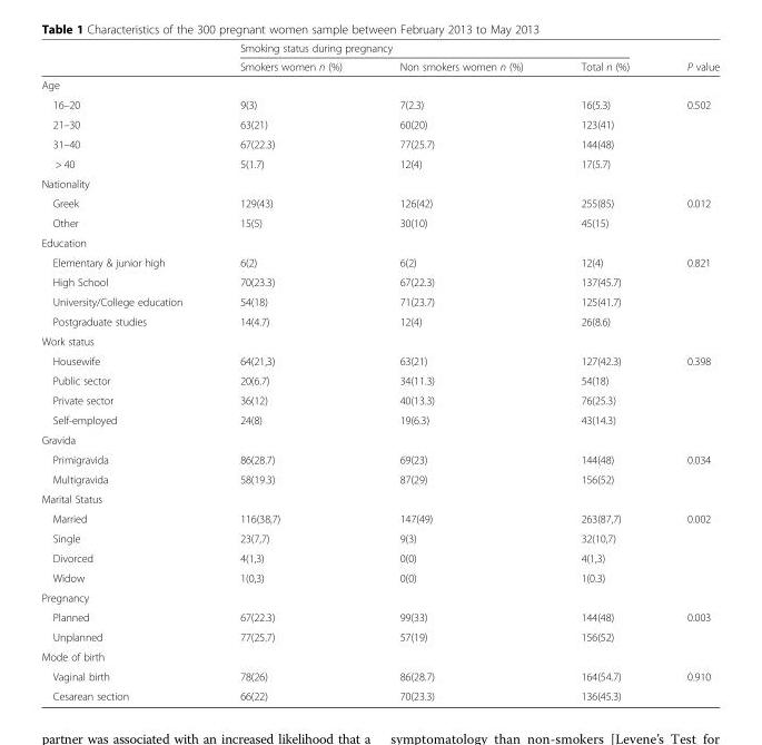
<table><thead><tr><td rowspan="2"></td><td colspan="3">Smoking status during pregnancy</td><td rowspan="2">P value</td></tr><tr><td>Smokers women n (%)</td><td>Non smokers women n (%)</td><td>Total n (%)</td></tr></thead><tbody><tr><td colspan="5">Age</td></tr><tr><td>16–20</td><td>9(3)</td><td>7(2.3)</td><td>16(5.3)</td><td rowspan="4">0.502</td></tr><tr><td>21–30</td><td>63(21)</td><td>60(20)</td><td>123(41)</td></tr><tr><td>31–40</td><td>67(22.3)</td><td>77(25.7)</td><td>144(48)</td></tr><tr><td>&gt; 40</td><td>5(1.7)</td><td>12(4)</td><td>17(5.7)</td></tr><tr><td colspan="5">Nationality</td></tr><tr><td>Greek</td><td>129(43)</td><td>126(42)</td><td>255(85)</td><td rowspan="2">0.012</td></tr><tr><td>Other</td><td>15(5)</td><td>30(10)</td><td>45(15)</td></tr><tr><td colspan="5">Education</td></tr><tr><td>Elementary &amp; junior high</td><td>6(2)</td><td>6(2)</td><td>12(4)</td><td rowspan="4">0.821</td></tr><tr><td>High School</td><td>70(23.3)</td><td>67(22.3)</td><td>137(45.7)</td></tr><tr><td>University/College education</td><td>54(18)</td><td>71(23.7)</td><td>125(41.7)</td></tr><tr><td>Postgraduate studies</td><td>14(4.7)</td><td>12(4)</td><td>26(8.6)</td></tr><tr><td colspan="5">Work status</td></tr><tr><td>Housewife</td><td>64(21,3)</td><td>63(21)</td><td>127(42.3)</td><td rowspan="4">0.398</td></tr><tr><td>Public sector</td><td>20(6.7)</td><td>34(11.3)</td><td>54(18)</td></tr><tr><td>Private sector</td><td>36(12)</td><td>40(13.3)</td><td>76(25.3)</td></tr><tr><td>Self-employed</td><td>24(8)</td><td>19(6.3)</td><td>43(14.3)</td></tr><tr><td colspan="5">Gravida</td></tr><tr><td>Primigravida</td><td>86(28.7)</td><td>69(23)</td><td>144(48)</td><td rowspan="2">0.034</td></tr><tr><td>Multigravida</td><td>58(19.3)</td><td>87(29)</td><td>156(52)</td></tr><tr><td colspan="5">Marital Status</td></tr><tr><td>Married</td><td>116(38,7)</td><td>147(49)</td><td>263(87,7)</td><td rowspan="4">0.002</td></tr><tr><td>Single</td><td>23(7,7)</td><td>9(3)</td><td>32(10,7)</td></tr><tr><td>Divorced</td><td>4(1,3)</td><td>0(0)</td><td>4(1,3)</td></tr><tr><td>Widow</td><td>1(0,3)</td><td>0(0)</td><td>1(0.3)</td></tr><tr><td colspan="5">Pregnancy</td></tr><tr><td>Planned</td><td>67(22.3)</td><td>99(33)</td><td>144(48)</td><td rowspan="2">0.003</td></tr><tr><td>Unplanned</td><td>77(25.7)</td><td>57(19)</td><td>156(52)</td></tr><tr><td colspan="5">Mode of birth</td></tr><tr><td>Vaginal birth</td><td>78(26)</td><td>86(28.7)</td><td>164(54.7)</td><td rowspan="2">0.910</td></tr><tr><td>Cesarean section</td><td>66(22)</td><td>70(23.3)</td><td>136(45.3)</td></tr></tbody></table>